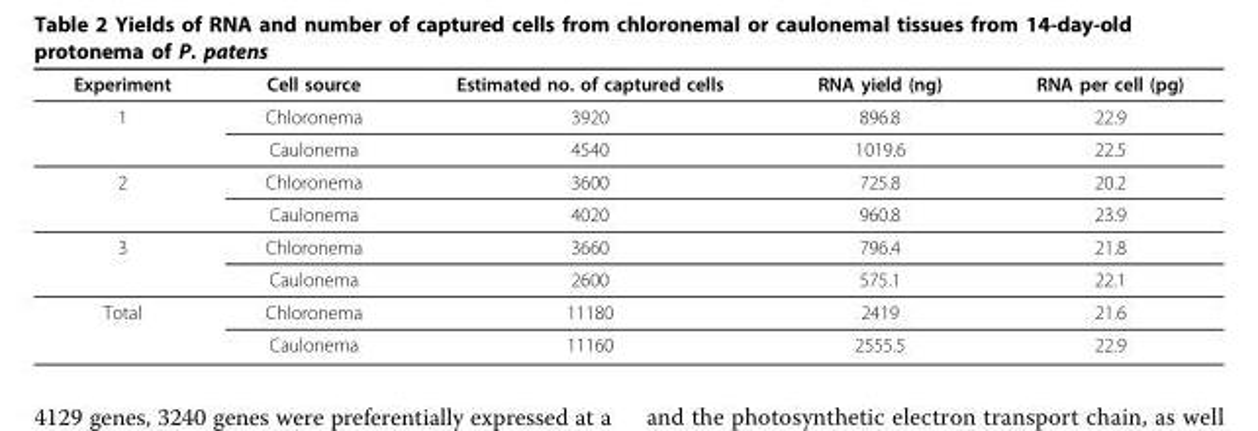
<table><thead><tr><td>Experiment</td><td>Cell source</td><td>Estimated no. of captured cells</td><td>RNA yield (ng)</td><td>RNA per cell (pg)</td></tr></thead><tbody><tr><td rowspan="2">1</td><td>Chloronema</td><td>3920</td><td>896.8</td><td>22.9</td></tr><tr><td>Caulonema</td><td>4540</td><td>1019.6</td><td>22.5</td></tr><tr><td rowspan="2">2</td><td>Chloronema</td><td>3600</td><td>725.8</td><td>20.2</td></tr><tr><td>Caulonema</td><td>4020</td><td>960.8</td><td>23.9</td></tr><tr><td rowspan="2">3</td><td>Chloronema</td><td>3660</td><td>796.4</td><td>21.8</td></tr><tr><td>Caulonema</td><td>2600</td><td>575.1</td><td>22.1</td></tr><tr><td rowspan="2">Total</td><td>Chloronema</td><td>11180</td><td>2419</td><td>21.6</td></tr><tr><td>Caulonema</td><td>11160</td><td>2555.5</td><td>22.9</td></tr></tbody></table>